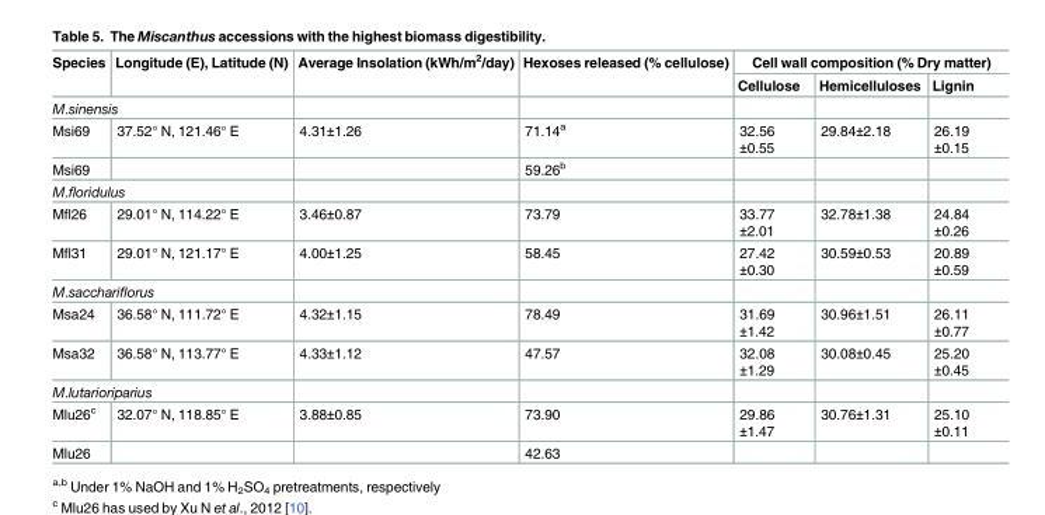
<table><thead><tr><td rowspan="2">Species</td><td rowspan="2">Longitude (E), Latitude (N)</td><td rowspan="2">Average Insolation (kWh/m<sup>2</sup>/day)</td><td rowspan="2">Hexoses released (% cellulose)</td><td colspan="3">Cell wall composition (% Dry matter)</td></tr><tr><td>Cellulose</td><td>Hemicelluloses</td><td>Lignin</td></tr></thead><tbody><tr><td colspan="7">M.sinensis</td></tr><tr><td>Msi69</td><td>37.52° N, 121.46° E</td><td>4.31±1.26</td><td>71.14<sup>a</sup></td><td>32.56 ±0.55</td><td>29.84±2.18</td><td>26.19 ±0.15</td></tr><tr><td>Msi69</td><td></td><td></td><td>59.26<sup>b</sup></td><td></td><td></td><td></td></tr><tr><td colspan="7">M.floridulus</td></tr><tr><td>Mfl26</td><td>29.01° N, 114.22° E</td><td>3.46±0.87</td><td>73.79</td><td>33.77 ±2.01</td><td>32.78±1.38</td><td>24.84 ±0.26</td></tr><tr><td>Mfl31</td><td>29.01° N, 121.17° E</td><td>4.00±1.25</td><td>58.45</td><td>27.42 ±0.30</td><td>30.59±0.53</td><td>20.89 ±0.59</td></tr><tr><td colspan="7">M.sacchariflorus</td></tr><tr><td>Msa24</td><td>36.58° N, 111.72° E</td><td>4.32±1.15</td><td>78.49</td><td>31.69 ±1.42</td><td>30.96±1.51</td><td>26.11 ±0.77</td></tr><tr><td>Msa32</td><td>36.58° N, 113.77° E</td><td>4.33±1.12</td><td>47.57</td><td>32.08 ±1.29</td><td>30.08±0.45</td><td>25.20 ±0.45</td></tr><tr><td colspan="7">M.lutarioriparius</td></tr><tr><td>Mlu26<sup>c</sup></td><td>32.07° N, 118.85° E</td><td>3.88±0.85</td><td>73.90</td><td>29.86 ±1.47</td><td>30.76±1.31</td><td>25.10 ±0.11</td></tr><tr><td>Mlu26</td><td></td><td></td><td>42.63</td><td></td><td></td><td></td></tr></tbody></table>